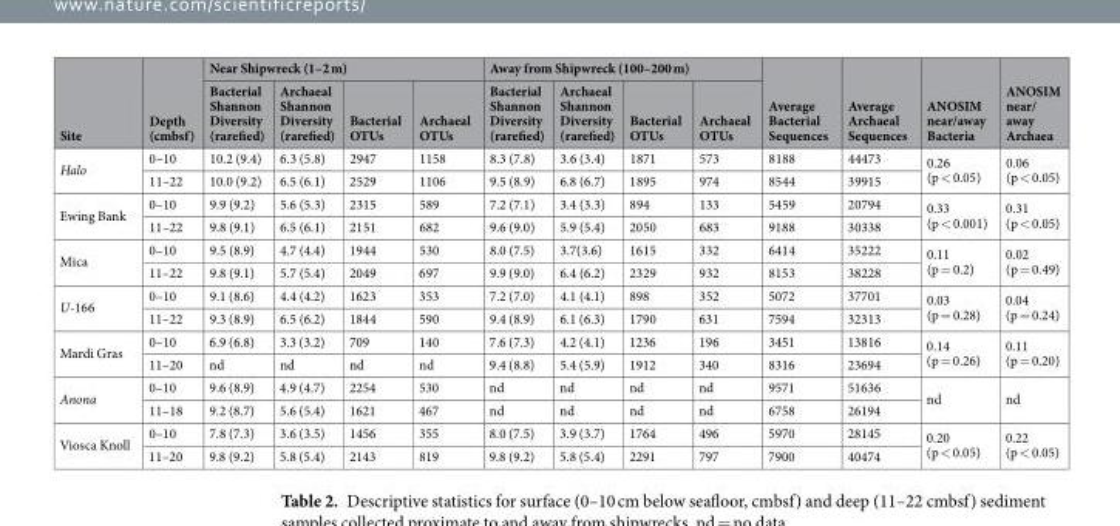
<table><thead><tr><td rowspan="2">Site</td><td rowspan="2">Depth (cmbsf)</td><td colspan="4">Near Shipwreck (1–2 m)</td><td colspan="4">Away from Shipwreck (100–200 m)</td><td rowspan="2">Average Bacterial Sequences</td><td rowspan="2">Average Archaeal Sequences</td><td rowspan="2">ANOSIM near/away Bacteria</td><td rowspan="2">ANOSIM near/ away Archaea</td></tr><tr><td>Bacterial Shannon Diversity (rarefied)</td><td>Archaeal Shannon Diversity (rarefied)</td><td>Bacterial OTUs</td><td>Archaeal OTUs</td><td>Bacterial Shannon Diversity (rarefied)</td><td>Archaeal Shannon Diversity (rarefied)</td><td>Bacterial OTUs</td><td>Archaeal OTUs</td></tr></thead><tbody><tr><td rowspan="2">Halo</td><td>0–10</td><td>10.2 (9.4)</td><td>6.3 (5.8)</td><td>2947</td><td>1158</td><td>8.3 (7.8)</td><td>3.6 (3.4)</td><td>1871</td><td>573</td><td>8188</td><td>44473</td><td rowspan="2">0.26 (p &lt; 0.05)</td><td rowspan="2">0.06 (p &lt; 0.05)</td></tr><tr><td>11–22</td><td>10.0 (9.2)</td><td>6.5 (6.1)</td><td>2529</td><td>1106</td><td>9.5 (8.9)</td><td>6.8 (6.7)</td><td>1895</td><td>974</td><td>8544</td><td>39915</td></tr><tr><td rowspan="2">Ewing Bank</td><td>0–10</td><td>9.9 (9.2)</td><td>5.6 (5.3)</td><td>2315</td><td>589</td><td>7.2 (7.1)</td><td>3.4 (3.3)</td><td>894</td><td>133</td><td>5459</td><td>20794</td><td rowspan="2">0.33 (p &lt; 0.001)</td><td rowspan="2">0.31 (p &lt; 0.05)</td></tr><tr><td>11–22</td><td>9.8 (9.1)</td><td>6.5 (6.1)</td><td>2151</td><td>682</td><td>9.6 (9.0)</td><td>5.9 (5.4)</td><td>2050</td><td>683</td><td>9188</td><td>30338</td></tr><tr><td rowspan="2">Mica</td><td>0–10</td><td>9.5 (8.9)</td><td>4.7 (4.4)</td><td>1944</td><td>530</td><td>8.0 (7.5)</td><td>3.7(3.6)</td><td>1615</td><td>332</td><td>6414</td><td>35222</td><td rowspan="2">0.11 (p = 0.2)</td><td rowspan="2">0.02 (p = 0.49)</td></tr><tr><td>11–22</td><td>9.8 (9.1)</td><td>5.7 (5.4)</td><td>2049</td><td>697</td><td>9.9 (9.0)</td><td>6.4 (6.2)</td><td>2329</td><td>932</td><td>8153</td><td>38228</td></tr><tr><td rowspan="2">U-166</td><td>0–10</td><td>9.1 (8.6)</td><td>4.4 (4.2)</td><td>1623</td><td>353</td><td>7.2 (7.0)</td><td>4.1 (4.1)</td><td>898</td><td>352</td><td>5072</td><td>37701</td><td rowspan="2">0.03 (p = 0.28)</td><td rowspan="2">0.04 (p = 0.24)</td></tr><tr><td>11–22</td><td>9.3 (8.9)</td><td>6.5 (6.2)</td><td>1844</td><td>590</td><td>9.4 (8.9)</td><td>6.1 (6.3)</td><td>1790</td><td>631</td><td>7594</td><td>32313</td></tr><tr><td rowspan="2">Mardi Gras</td><td>0–10</td><td>6.9 (6.8)</td><td>3.3 (3.2)</td><td>709</td><td>140</td><td>7.6 (7.3)</td><td>4.2 (4.1)</td><td>1236</td><td>196</td><td>3451</td><td>13816</td><td rowspan="2">0.14 (p = 0.26)</td><td rowspan="2">0.11 (p = 0.20)</td></tr><tr><td>11–20</td><td>nd</td><td>nd</td><td>nd</td><td>nd</td><td>9.4 (8.8)</td><td>5.4 (5.9)</td><td>1912</td><td>340</td><td>8316</td><td>23694</td></tr><tr><td rowspan="2">Anona</td><td>0–10</td><td>9.6 (8.9)</td><td>4.9 (4.7)</td><td>2254</td><td>530</td><td>nd</td><td>nd</td><td>nd</td><td>nd</td><td>9571</td><td>51636</td><td rowspan="2">nd</td><td rowspan="2">nd</td></tr><tr><td>11–18</td><td>9.2 (8.7)</td><td>5.6 (5.4)</td><td>1621</td><td>467</td><td>nd</td><td>nd</td><td>nd</td><td>nd</td><td>6758</td><td>26194</td></tr><tr><td rowspan="2">Viosca Knoll</td><td>0–10</td><td>7.8 (7.3)</td><td>3.6 (3.5)</td><td>1456</td><td>355</td><td>8.0 (7.5)</td><td>3.9 (3.7)</td><td>1764</td><td>496</td><td>5970</td><td>28145</td><td rowspan="2">0.20 (p &lt; 0.05)</td><td rowspan="2">0.22 (p &lt; 0.05)</td></tr><tr><td>11–20</td><td>9.8 (9.2)</td><td>5.8 (5.4)</td><td>2143</td><td>819</td><td>9.8 (9.2)</td><td>5.8 (5.4)</td><td>2291</td><td>797</td><td>7900</td><td>40474</td></tr></tbody></table>